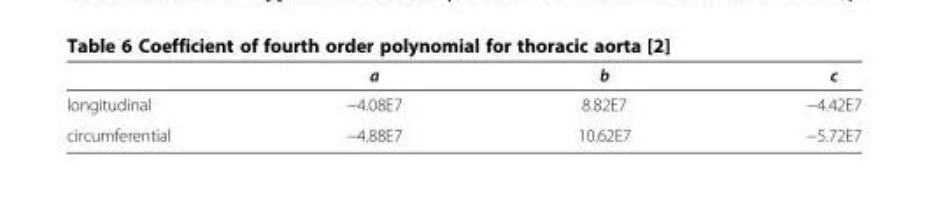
<table><thead><tr><td></td><td>a</td><td>b</td><td>c</td></tr></thead><tbody><tr><td>longitudinal</td><td>−4.08E7</td><td>8.82E7</td><td>−4.42E7</td></tr><tr><td>circumferential</td><td>−4.88E7</td><td>10.62E7</td><td>−5.72E7</td></tr></tbody></table>